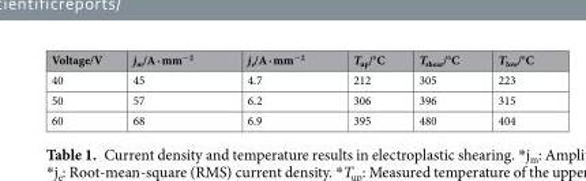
<table><thead><tr><td>Voltage/V</td><td>j<sub>m</sub>/A · mm<sup>−2</sup></td><td>j<sub>e</sub>/A · mm<sup>−2</sup></td><td>T<sub>up</sub>/°C</td><td>T<sub>shear</sub>/°C</td><td>T<sub>low</sub>/°C</td></tr></thead><tbody><tr><td>40</td><td>45</td><td>4.7</td><td>212</td><td>305</td><td>223</td></tr><tr><td>50</td><td>57</td><td>6.2</td><td>306</td><td>396</td><td>315</td></tr><tr><td>60</td><td>68</td><td>6.9</td><td>395</td><td>480</td><td>404</td></tr></tbody></table>